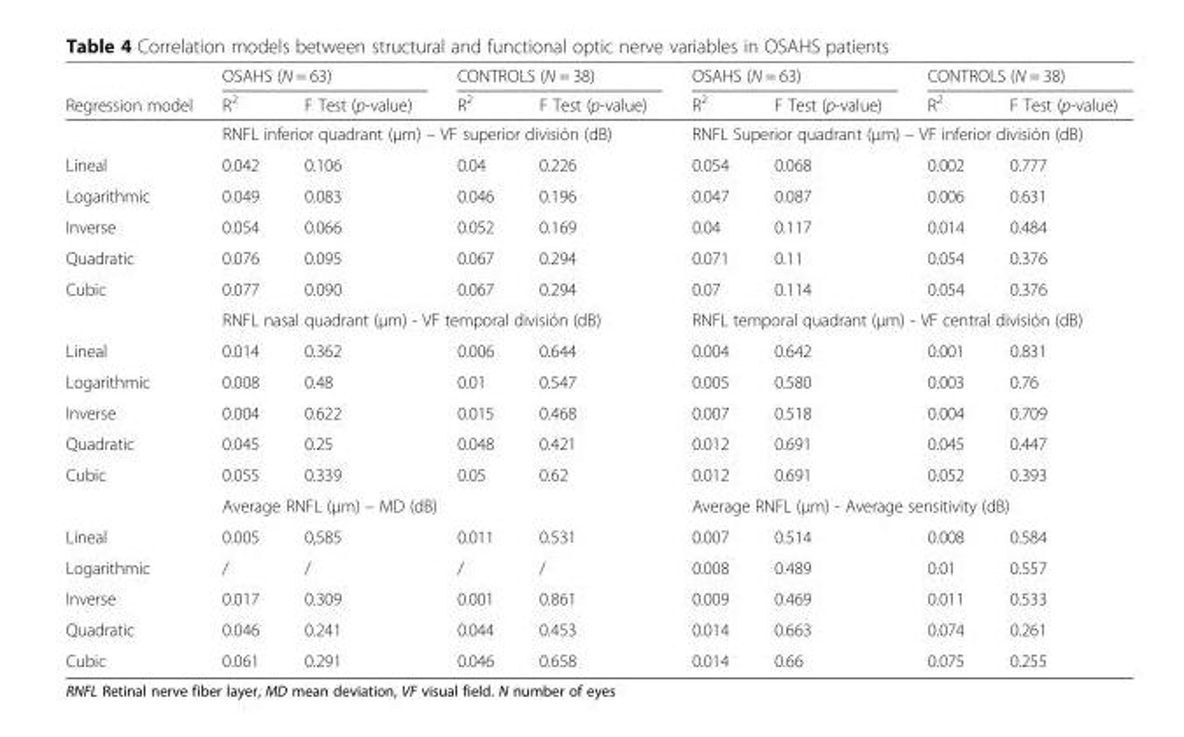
<table><thead><tr><td rowspan="2">Regression model</td><td colspan="2">OSAHS (N = 63)</td><td colspan="2">CONTROLS (N = 38)</td><td colspan="2">OSAHS (N = 63)</td><td colspan="2">CONTROLS (N = 38)</td></tr><tr><td>R<sup>2</sup></td><td>F Test (p-value)</td><td>R<sup>2</sup></td><td>F Test (p-value)</td><td>R<sup>2</sup></td><td>F Test (p-value)</td><td>R<sup>2</sup></td><td>F Test (p-value)</td></tr></thead><tbody><tr><td></td><td colspan="4">RNFL inferior quadrant (μm) – VF superior división (dB)</td><td colspan="4">RNFL Superior quadrant (μm) – VF inferior división (dB)</td></tr><tr><td>Lineal</td><td>0.042</td><td>0.106</td><td>0.04</td><td>0.226</td><td>0.054</td><td>0.068</td><td>0.002</td><td>0.777</td></tr><tr><td>Logarithmic</td><td>0.049</td><td>0.083</td><td>0.046</td><td>0.196</td><td>0.047</td><td>0.087</td><td>0.006</td><td>0.631</td></tr><tr><td>Inverse</td><td>0.054</td><td>0.066</td><td>0.052</td><td>0.169</td><td>0.04</td><td>0.117</td><td>0.014</td><td>0.484</td></tr><tr><td>Quadratic</td><td>0.076</td><td>0.095</td><td>0.067</td><td>0.294</td><td>0.071</td><td>0.11</td><td>0.054</td><td>0.376</td></tr><tr><td rowspan="2">Cubic</td><td>0.077</td><td>0.090</td><td>0.067</td><td>0.294</td><td>0.07</td><td>0.114</td><td>0.054</td><td>0.376</td></tr><tr><td colspan="4">RNFL nasal quadrant (μm) - VF temporal división (dB)</td><td colspan="4">RNFL temporal quadrant (μm) - VF central división (dB)</td></tr><tr><td>Lineal</td><td>0.014</td><td>0.362</td><td>0.006</td><td>0.644</td><td>0.004</td><td>0.642</td><td>0.001</td><td>0.831</td></tr><tr><td>Logarithmic</td><td>0.008</td><td>0.48</td><td>0.01</td><td>0.547</td><td>0.005</td><td>0.580</td><td>0.003</td><td>0.76</td></tr><tr><td>Inverse</td><td>0.004</td><td>0.622</td><td>0.015</td><td>0.468</td><td>0.007</td><td>0.518</td><td>0.004</td><td>0.709</td></tr><tr><td>Quadratic</td><td>0.045</td><td>0.25</td><td>0.048</td><td>0.421</td><td>0.012</td><td>0.691</td><td>0.045</td><td>0.447</td></tr><tr><td rowspan="2">Cubic</td><td>0.055</td><td>0.339</td><td>0.05</td><td>0.62</td><td>0.012</td><td>0.691</td><td>0.052</td><td>0.393</td></tr><tr><td colspan="4">Average RNFL (μm) – MD (dB)</td><td colspan="4">Average RNFL (μm) - Average sensitivity (dB)</td></tr><tr><td>Lineal</td><td>0.005</td><td>0,585</td><td>0.011</td><td>0.531</td><td>0.007</td><td>0.514</td><td>0.008</td><td>0.584</td></tr><tr><td>Logarithmic</td><td>/</td><td>/</td><td>/</td><td>/</td><td>0.008</td><td>0.489</td><td>0.01</td><td>0.557</td></tr><tr><td>Inverse</td><td>0.017</td><td>0.309</td><td>0.001</td><td>0.861</td><td>0.009</td><td>0.469</td><td>0.011</td><td>0.533</td></tr><tr><td>Quadratic</td><td>0.046</td><td>0.241</td><td>0.044</td><td>0.453</td><td>0.014</td><td>0.663</td><td>0.074</td><td>0.261</td></tr><tr><td>Cubic</td><td>0.061</td><td>0.291</td><td>0.046</td><td>0.658</td><td>0.014</td><td>0.66</td><td>0.075</td><td>0.255</td></tr></tbody></table>